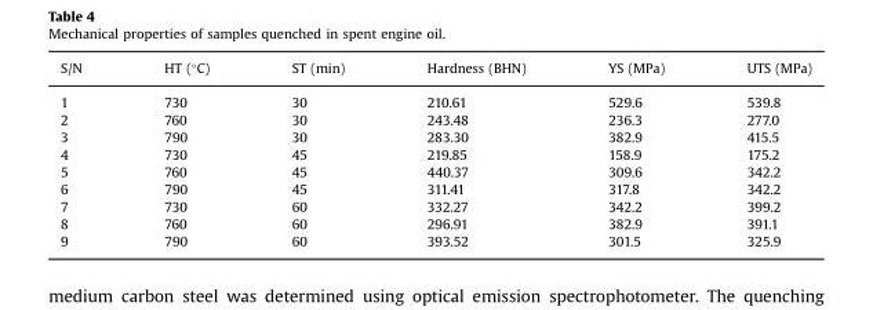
<table><thead><tr><td>S/N</td><td>HT (°C)</td><td>ST (min)</td><td>Hardness (BHN)</td><td>YS (MPa)</td><td>UTS (MPa)</td></tr></thead><tbody><tr><td>1</td><td>730</td><td>30</td><td>210.61</td><td>529.6</td><td>539.8</td></tr><tr><td>2</td><td>760</td><td>30</td><td>243.48</td><td>236.3</td><td>277.0</td></tr><tr><td>3</td><td>790</td><td>30</td><td>283.30</td><td>382.9</td><td>415.5</td></tr><tr><td>4</td><td>730</td><td>45</td><td>219.85</td><td>158.9</td><td>175.2</td></tr><tr><td>5</td><td>760</td><td>45</td><td>440.37</td><td>309.6</td><td>342.2</td></tr><tr><td>6</td><td>790</td><td>45</td><td>311.41</td><td>317.8</td><td>342.2</td></tr><tr><td>7</td><td>730</td><td>60</td><td>332.27</td><td>342.2</td><td>399.2</td></tr><tr><td>8</td><td>760</td><td>60</td><td>296.91</td><td>382.9</td><td>391.1</td></tr><tr><td>9</td><td>790</td><td>60</td><td>393.52</td><td>301.5</td><td>325.9</td></tr></tbody></table>